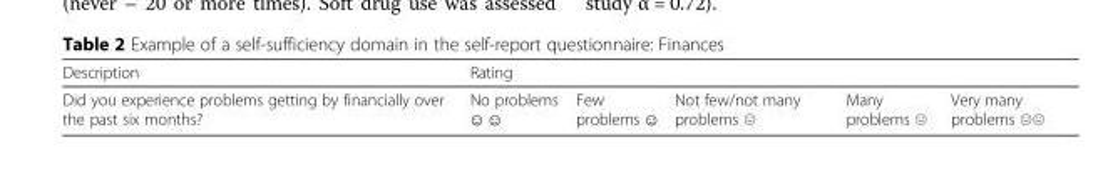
<table><thead><tr><td>Description</td><td>Rating</td><td></td><td></td><td></td><td></td></tr></thead><tbody><tr><td>Did you experience problems getting by financially over the past six months?</td><td>No problems ☺ ☺</td><td>Few problems ☺</td><td>Not few/not many problems ☹</td><td>Many problems ☹</td><td>Very many problems ☹☹</td></tr></tbody></table>